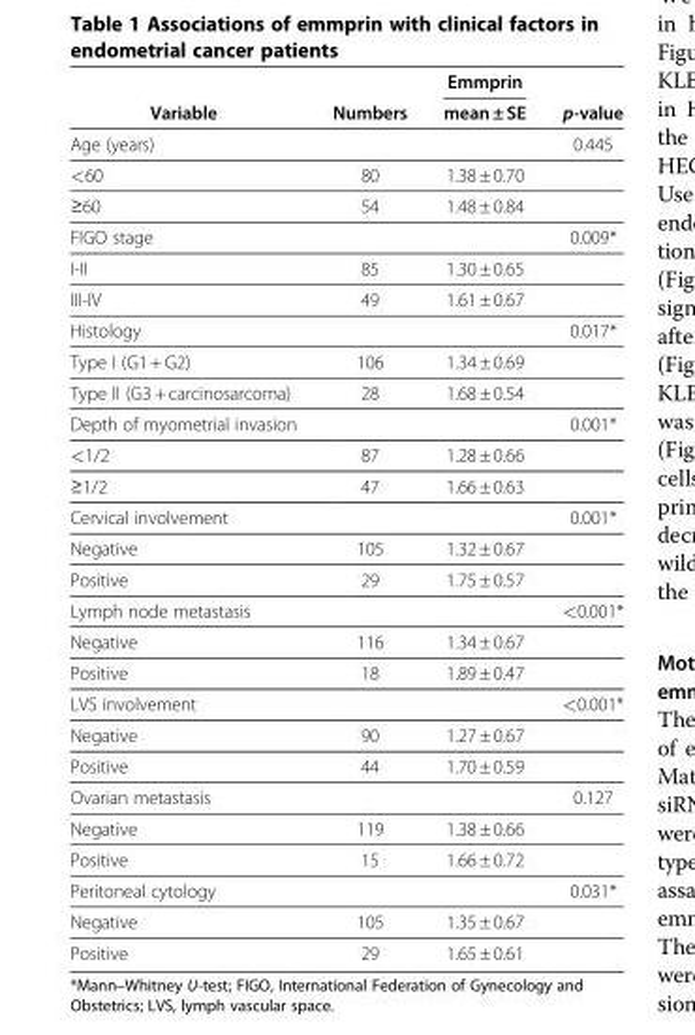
<table><thead><tr><td rowspan="2">Variable</td><td rowspan="2">Numbers</td><td rowspan="2">Emmprin mean ± SE</td><td rowspan="2">p-value</td></tr><tr></tr></thead><tbody><tr><td>Age (years)</td><td></td><td></td><td>0.445</td></tr><tr><td>&lt;60</td><td>80</td><td>1.38 ± 0.70</td><td></td></tr><tr><td>≥60</td><td>54</td><td>1.48 ± 0.84</td><td></td></tr><tr><td>FIGO stage</td><td></td><td></td><td>0.009*</td></tr><tr><td>I-II</td><td>85</td><td>1.30 ± 0.65</td><td></td></tr><tr><td>III-IV</td><td>49</td><td>1.61 ± 0.67</td><td></td></tr><tr><td>Histology</td><td></td><td></td><td>0.017*</td></tr><tr><td>Type I (G1 + G2)</td><td>106</td><td>1.34 ± 0.69</td><td></td></tr><tr><td>Type II (G3 + carcinosarcoma)</td><td>28</td><td>1.68 ± 0.54</td><td></td></tr><tr><td>Depth of myometrial invasion</td><td></td><td></td><td>0.001*</td></tr><tr><td>&lt;1/2</td><td>87</td><td>1.28 ± 0.66</td><td></td></tr><tr><td>≥1/2</td><td>47</td><td>1.66 ± 0.63</td><td></td></tr><tr><td>Cervical involvement</td><td></td><td></td><td>0.001*</td></tr><tr><td>Negative</td><td>105</td><td>1.32 ± 0.67</td><td></td></tr><tr><td>Positive</td><td>29</td><td>1.75 ± 0.57</td><td></td></tr><tr><td>Lymph node metastasis</td><td></td><td></td><td>&lt;0.001*</td></tr><tr><td>Negative</td><td>116</td><td>1.34 ± 0.67</td><td></td></tr><tr><td>Positive</td><td>18</td><td>1.89 ± 0.47</td><td></td></tr><tr><td>LVS involvement</td><td></td><td></td><td>&lt;0.001*</td></tr><tr><td>Negative</td><td>90</td><td>1.27 ± 0.67</td><td></td></tr><tr><td>Positive</td><td>44</td><td>1.70 ± 0.59</td><td></td></tr><tr><td>Ovarian metastasis</td><td></td><td></td><td>0.127</td></tr><tr><td>Negative</td><td>119</td><td>1.38 ± 0.66</td><td></td></tr><tr><td>Positive</td><td>15</td><td>1.66 ± 0.72</td><td></td></tr><tr><td>Peritoneal cytology</td><td></td><td></td><td>0.031*</td></tr><tr><td>Negative</td><td>105</td><td>1.35 ± 0.67</td><td></td></tr><tr><td>Positive</td><td>29</td><td>1.65 ± 0.61</td><td></td></tr></tbody></table>